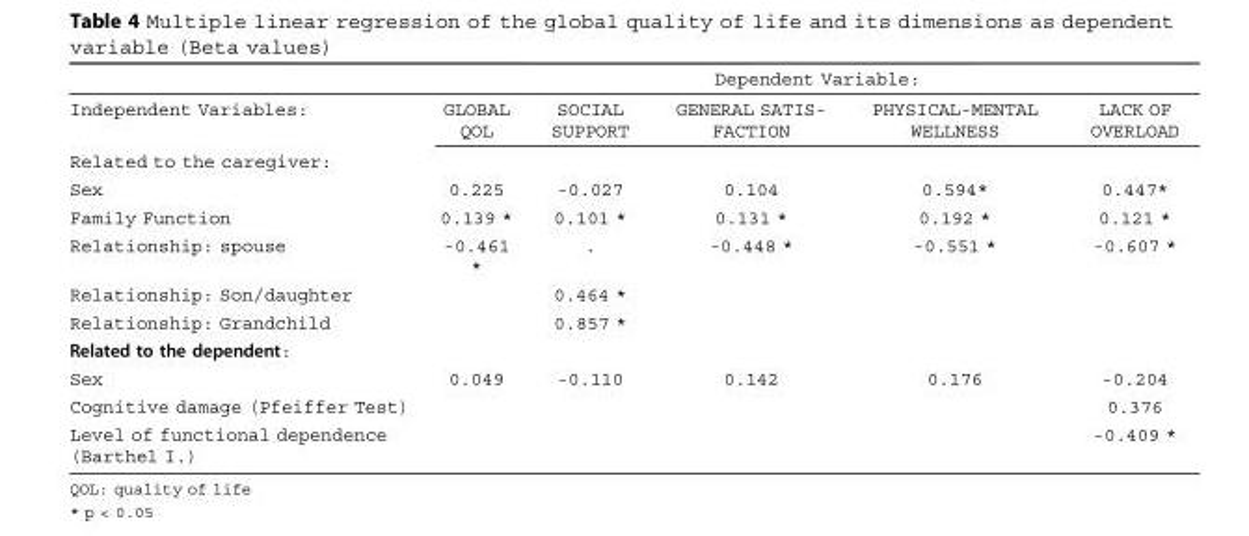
<table><thead><tr><td rowspan="2">Independent Variables:</td><td colspan="5">Dependent Variable:</td></tr><tr><td>GLOBAL QOL</td><td>SOCIAL SUPPORT</td><td>GENERAL SATIS- FACTION</td><td>PHYSICAL-MENTAL WELLNESS</td><td>LACK OF OVERLOAD</td></tr></thead><tbody><tr><td colspan="6">Related to the caregiver:</td></tr><tr><td>Sex</td><td>0.225</td><td>-0.027</td><td>0.104</td><td>0.594*</td><td>0.447*</td></tr><tr><td>Family Function</td><td>0.139 *</td><td>0.101 *</td><td>0.131 *</td><td>0.192 *</td><td>0.121 *</td></tr><tr><td>Relationship: spouse</td><td>-0.461 *</td><td>.</td><td>-0.448 *</td><td>-0.551 *</td><td>-0.607 *</td></tr><tr><td>Relationship: Son/daughter</td><td></td><td>0.464 *</td><td></td><td></td><td></td></tr><tr><td>Relationship: Grandchild</td><td></td><td>0.857 *</td><td></td><td></td><td></td></tr><tr><td colspan="6">Related to the dependent:</td></tr><tr><td>Sex</td><td>0.049</td><td>-0.110</td><td>0.142</td><td>0.176</td><td>-0.204</td></tr><tr><td>Cognitive damage (Pfeiffer Test)</td><td></td><td></td><td></td><td></td><td>0.376</td></tr><tr><td>Level of functional dependence (Barthel I.)</td><td></td><td></td><td></td><td></td><td>-0.409 *</td></tr></tbody></table>